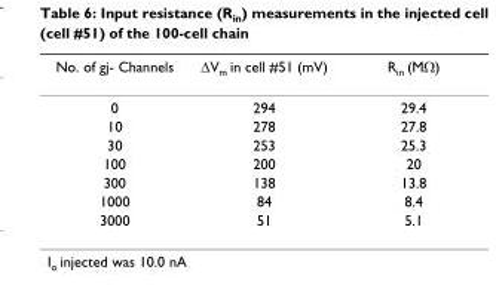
<table><thead><tr><td>No. of gj- Channels</td><td>∆Vm in cell #51 (mV)</td><td>R<sub>in</sub> (MΩ)</td></tr></thead><tbody><tr><td>0</td><td>294</td><td>29.4</td></tr><tr><td>10</td><td>278</td><td>27.8</td></tr><tr><td>30</td><td>253</td><td>25.3</td></tr><tr><td>100</td><td>200</td><td>20</td></tr><tr><td>300</td><td>138</td><td>13.8</td></tr><tr><td>1000</td><td>84</td><td>8.4</td></tr><tr><td>3000</td><td>51</td><td>5.1</td></tr></tbody></table>